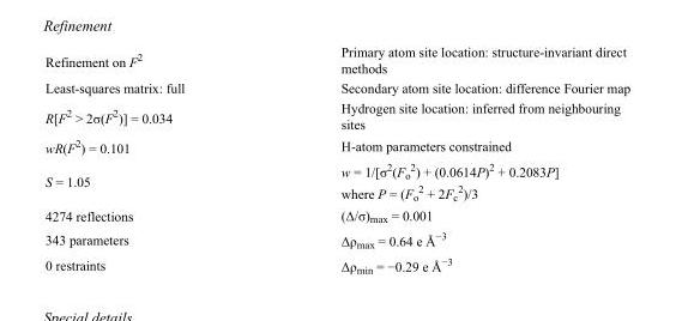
<table><tbody><tr><td>Refinement on F<sup>2</sup></td><td>Primary atom site location: structure-invariant direct methods</td></tr><tr><td>Least-squares matrix: full</td><td>Secondary atom site location: difference Fourier map</td></tr><tr><td>R[F<sup>2</sup> &gt; 2σ(F<sup>2</sup>)] = 0.034</td><td>Hydrogen site location: inferred from neighbouring sites</td></tr><tr><td>wR(F<sup>2</sup>) = 0.101</td><td>H-atom parameters constrained</td></tr><tr><td>S = 1.05</td><td>w = 1/[σ<sup>2</sup>(F<sub>o</sub> <sup>2</sup>) + (0.0614P)<sup>2</sup> + 0.2083P] where P = (F<sub>o</sub> <sup>2</sup> + 2F<sub>c</sub> <sup>2</sup>)/3</td></tr><tr><td>4274 reflections</td><td>(Δ/σ)<sub>max</sub> = 0.001</td></tr><tr><td>343 parameters</td><td>Δρ<sub>max</sub> = 0.64 e Å<sup>−3</sup></td></tr><tr><td>0 restraints</td><td>Δρ<sub>min</sub> = −0.29 e Å<sup>−3</sup></td></tr></tbody></table>